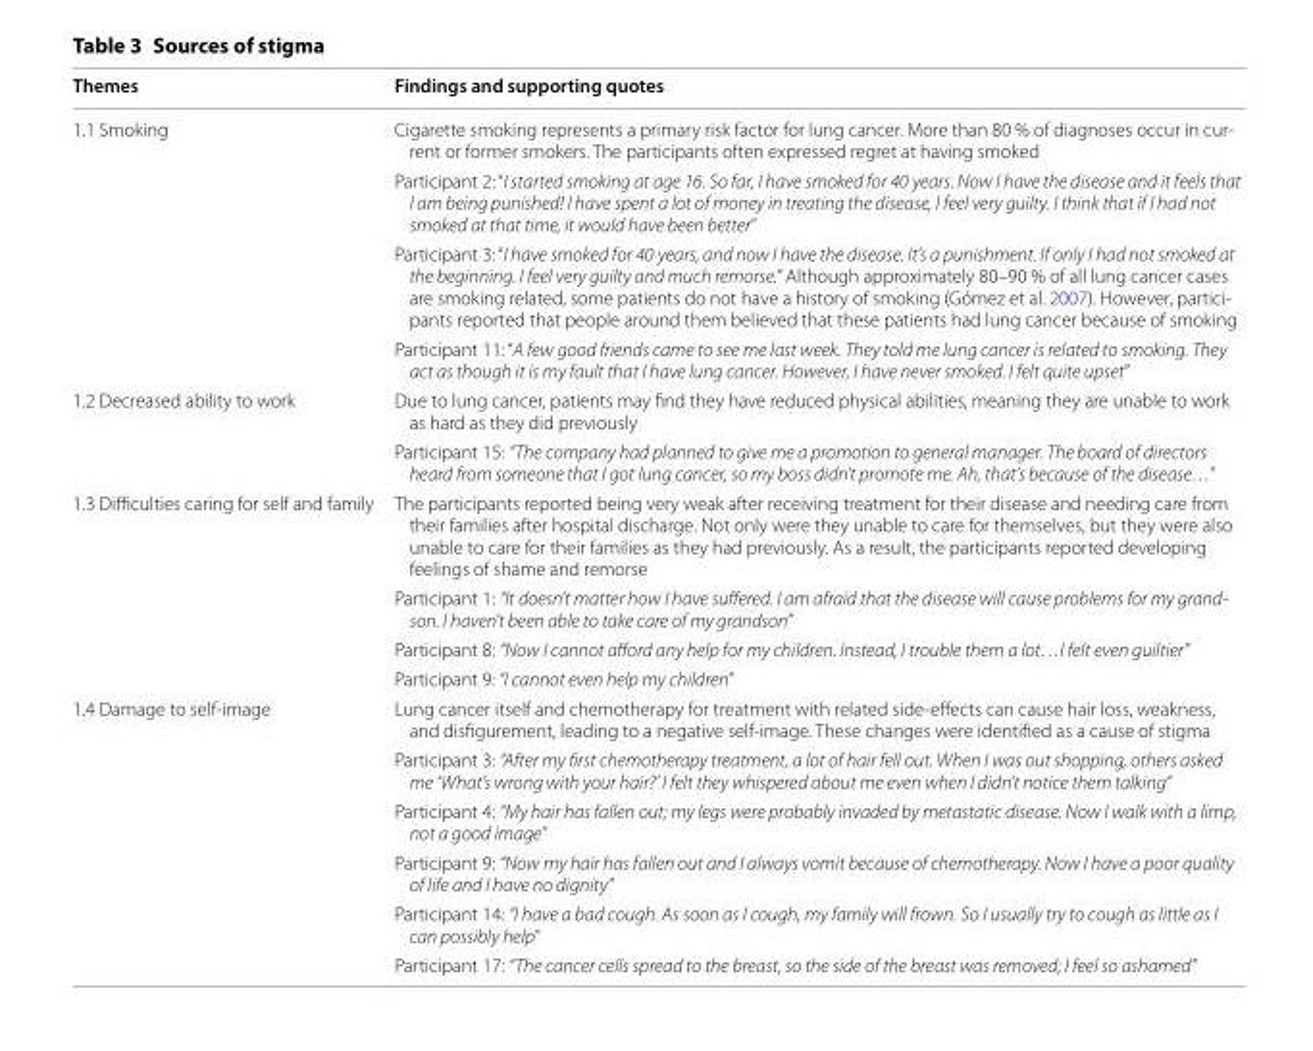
<table><thead><tr><td>Themes</td><td>Findings and supporting quotes</td></tr></thead><tbody><tr><td rowspan="4">1.1 Smoking</td><td>Cigarette smoking represents a primary risk factor for lung cancer. More than 80 % of diagnoses occur in cur- rent or former smokers. The participants often expressed regret at having smoked</td></tr><tr><td>Participant 2: “I started smoking at age 16. So far, I have smoked for 40 years. Now I have the disease and it feels that I am being punished! I have spent a lot of money in treating the disease, I feel very guilty. I think that if I had not smoked at that time, it would have been better”</td></tr><tr><td>Participant 3: “I have smoked for 40 years, and now I have the disease. It’s a punishment. If only I had not smoked at the beginning. I feel very guilty and much remorse.” Although approximately 80–90 % of all lung cancer cases are smoking related, some patients do not have a history of smoking (Gómez et al. 2007). However, partici- pants reported that people around them believed that these patients had lung cancer because of smoking</td></tr><tr><td>Participant 11: “A few good friends came to see me last week. They told me lung cancer is related to smoking. They act as though it is my fault that I have lung cancer. However, I have never smoked. I felt quite upset”</td></tr><tr><td rowspan="2">1.2 Decreased ability to work</td><td>Due to lung cancer, patients may find they have reduced physical abilities, meaning they are unable to work as hard as they did previously</td></tr><tr><td>Participant 15: “The company had planned to give me a promotion to general manager. The board of directors heard from someone that I got lung cancer, so my boss didn’t promote me. Ah, that’s because of the disease…”</td></tr><tr><td rowspan="4">1.3 Difficulties caring for self and family</td><td>The participants reported being very weak after receiving treatment for their disease and needing care from their families after hospital discharge. Not only were they unable to care for themselves, but they were also unable to care for their families as they had previously. As a result, the participants reported developing feelings of shame and remorse</td></tr><tr><td>Participant 1: “It doesn’t matter how I have suffered. I am afraid that the disease will cause problems for my grand- son. I haven’t been able to take care of my grandson”</td></tr><tr><td>Participant 8: “Now I cannot afford any help for my children. Instead, I trouble them a lot…I felt even guiltier”</td></tr><tr><td>Participant 9: “I cannot even help my children”</td></tr><tr><td rowspan="6">1.4 Damage to self-image</td><td>Lung cancer itself and chemotherapy for treatment with related side-effects can cause hair loss, weakness, and disfigurement, leading to a negative self-image. These changes were identified as a cause of stigma</td></tr><tr><td>Participant 3: “After my first chemotherapy treatment, a lot of hair fell out. When I was out shopping, others asked me ‘What’s wrong with your hair?’ I felt they whispered about me even when I didn’t notice them talking”</td></tr><tr><td>Participant 4: “My hair has fallen out; my legs were probably invaded by metastatic disease. Now I walk with a limp, not a good image”</td></tr><tr><td>Participant 9: “Now my hair has fallen out and I always vomit because of chemotherapy. Now I have a poor quality of life and I have no dignity”</td></tr><tr><td>Participant 14: “I have a bad cough. As soon as I cough, my family will frown. So I usually try to cough as little as I can possibly help”</td></tr><tr><td>Participant 17: “The cancer cells spread to the breast, so the side of the breast was removed; I feel so ashamed”</td></tr></tbody></table>